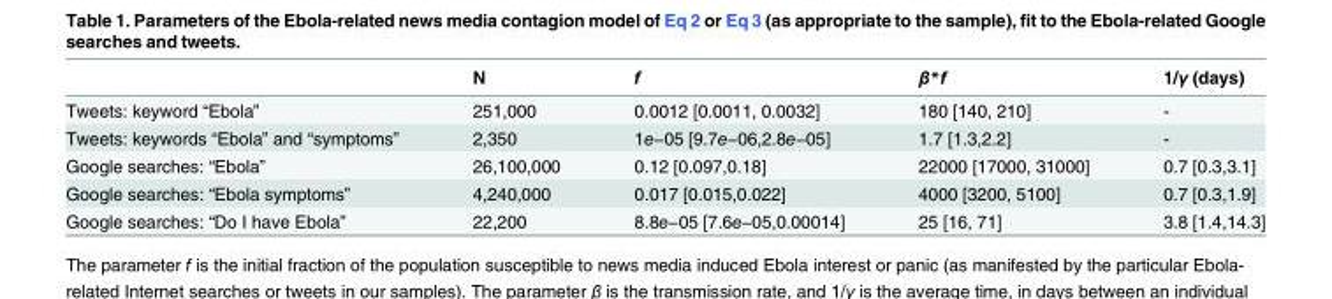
<table><thead><tr><td></td><td>N</td><td>f</td><td>β*f</td><td>1/γ (days)</td></tr></thead><tbody><tr><td>Tweets: keyword “Ebola”</td><td>251,000</td><td>0.0012 [0.0011, 0.0032]</td><td>180 [140, 210]</td><td>-</td></tr><tr><td>Tweets: keywords “Ebola” and “symptoms”</td><td>2,350</td><td>1e−05 [9.7e−06,2.8e−05]</td><td>1.7 [1.3,2.2]</td><td>-</td></tr><tr><td>Google searches: “Ebola”</td><td>26,100,000</td><td>0.12 [0.097,0.18]</td><td>22000 [17000, 31000]</td><td>0.7 [0.3,3.1]</td></tr><tr><td>Google searches: “Ebola symptoms”</td><td>4,240,000</td><td>0.017 [0.015,0.022]</td><td>4000 [3200, 5100]</td><td>0.7 [0.3,1.9]</td></tr><tr><td>Google searches: “Do I have Ebola”</td><td>22,200</td><td>8.8e−05 [7.6e−05,0.00014]</td><td>25 [16, 71]</td><td>3.8 [1.4,14.3]</td></tr></tbody></table>